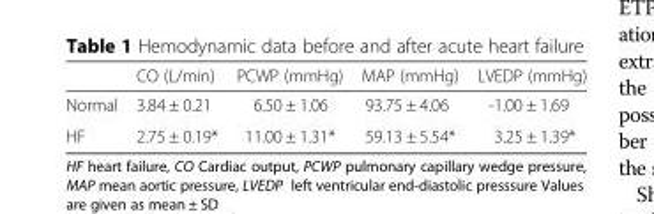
<table><thead><tr><td></td><td>CO (L/min)</td><td>PCWP (mmHg)</td><td>MAP (mmHg)</td><td>LVEDP (mmHg)</td></tr></thead><tbody><tr><td>Normal</td><td>3.84 ± 0.21</td><td>6.50 ± 1.06</td><td>93.75 ± 4.06</td><td>-1.00 ± 1.69</td></tr><tr><td>HF</td><td>2.75 ± 0.19*</td><td>11.00 ± 1.31*</td><td>59.13 ± 5.54*</td><td>3.25 ± 1.39*</td></tr></tbody></table>